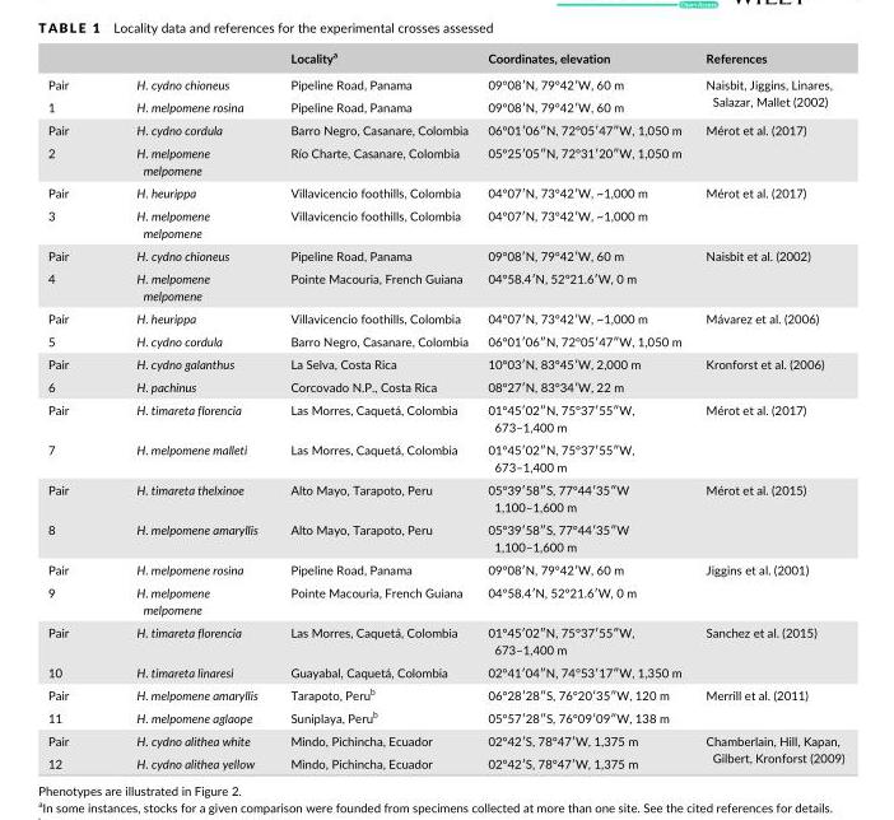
<table><thead><tr><td></td><td></td><td>Locality<sup>a</sup></td><td>Coordinates, elevation</td><td>References</td></tr></thead><tbody><tr><td>Pair</td><td>H. cydno chioneus</td><td>Pipeline Road, Panama</td><td>09°08′N, 79°42′W, 60 m</td><td rowspan="2">Naisbit, Jiggins, Linares, Salazar, Mallet (2002)</td></tr><tr><td>1</td><td>H. melpomene rosina</td><td>Pipeline Road, Panama</td><td>09°08′N, 79°42′W, 60 m</td></tr><tr><td>Pair</td><td>H. cydno cordula</td><td>Barro Negro, Casanare, Colombia</td><td>06°01′06″N, 72°05′47″W, 1,050 m</td><td rowspan="2">Mérot et al. (2017)</td></tr><tr><td>2</td><td>H. melpomene melpomene</td><td>Río Charte, Casanare, Colombia</td><td>05°25′05″N, 72°31′20″W, 1,050 m</td></tr><tr><td>Pair</td><td>H. heurippa</td><td>Villavicencio foothills, Colombia</td><td>04°07′N, 73°42′W, ~1,000 m</td><td rowspan="2">Mérot et al. (2017)</td></tr><tr><td>3</td><td>H. melpomene melpomene</td><td>Villavicencio foothills, Colombia</td><td>04°07′N, 73°42′W, ~1,000 m</td></tr><tr><td>Pair</td><td>H. cydno chioneus</td><td>Pipeline Road, Panama</td><td>09°08′N, 79°42′W, 60 m</td><td rowspan="2">Naisbit et al. (2002)</td></tr><tr><td>4</td><td>H. melpomene melpomene</td><td>Pointe Macouria, French Guiana</td><td>04°58.4′N, 52°21.6′W, 0 m</td></tr><tr><td>Pair</td><td>H. heurippa</td><td>Villavicencio foothills, Colombia</td><td>04°07′N, 73°42′W, ~1,000 m</td><td rowspan="2">Mávarez et al. (2006)</td></tr><tr><td>5</td><td>H. cydno cordula</td><td>Barro Negro, Casanare, Colombia</td><td>06°01′06″N, 72°05′47″W, 1,050 m</td></tr><tr><td>Pair</td><td>H. cydno galanthus</td><td>La Selva, Costa Rica</td><td>10°03′N, 83°45′W, 2,000 m</td><td rowspan="2">Kronforst et al. (2006)</td></tr><tr><td>6</td><td>H. pachinus</td><td>Corcovado N.P., Costa Rica</td><td>08°27′N, 83°34′W, 22 m</td></tr><tr><td>Pair</td><td>H. timareta florencia</td><td>Las Morres, Caquetá, Colombia</td><td>01°45′02″N, 75°37′55″W, 673–1,400 m</td><td rowspan="2">Mérot et al. (2017)</td></tr><tr><td>7</td><td>H. melpomene malleti</td><td>Las Morres, Caquetá, Colombia</td><td>01°45′02″N, 75°37′55″W, 673–1,400 m</td></tr><tr><td>Pair</td><td>H. timareta thelxinoe</td><td>Alto Mayo, Tarapoto, Peru</td><td>05°39′58″S, 77°44′35″W 1,100–1,600 m</td><td rowspan="2">Mérot et al. (2015)</td></tr><tr><td>8</td><td>H. melpomene amaryllis</td><td>Alto Mayo, Tarapoto, Peru</td><td>05°39′58″S, 77°44′35″W 1,100–1,600 m</td></tr><tr><td>Pair</td><td>H. melpomene rosina</td><td>Pipeline Road, Panama</td><td>09°08′N, 79°42′W, 60 m</td><td rowspan="2">Jiggins et al. (2001)</td></tr><tr><td>9</td><td>H. melpomene melpomene</td><td>Pointe Macouria, French Guiana</td><td>04°58.4′N, 52°21.6′W, 0 m</td></tr><tr><td>Pair</td><td>H. timareta florencia</td><td>Las Morres, Caquetá, Colombia</td><td>01°45′02″N, 75°37′55″W, 673–1,400 m</td><td rowspan="2">Sanchez et al. (2015)</td></tr><tr><td>10</td><td>H. timareta linaresi</td><td>Guayabal, Caquetá, Colombia</td><td>02°41′04″N, 74°53′17″W, 1,350 m</td></tr><tr><td>Pair</td><td>H. melpomene amaryllis</td><td>Tarapoto, Peru<sup>b</sup></td><td>06°28′28″S, 76°20′35″W, 120 m</td><td rowspan="2">Merrill et al. (2011)</td></tr><tr><td>11</td><td>H. melpomene aglaope</td><td>Suniplaya, Peru<sup>b</sup></td><td>05°57′28″S, 76°09′09″W, 138 m</td></tr><tr><td>Pair</td><td>H. cydno alithea white</td><td>Mindo, Pichincha, Ecuador</td><td>02°42′S, 78°47′W, 1,375 m</td><td rowspan="2">Chamberlain, Hill, Kapan, Gilbert, Kronforst (2009)</td></tr><tr><td>12</td><td>H. cydno alithea yellow</td><td>Mindo, Pichincha, Ecuador</td><td>02°42′S, 78°47′W, 1,375 m</td></tr></tbody></table>